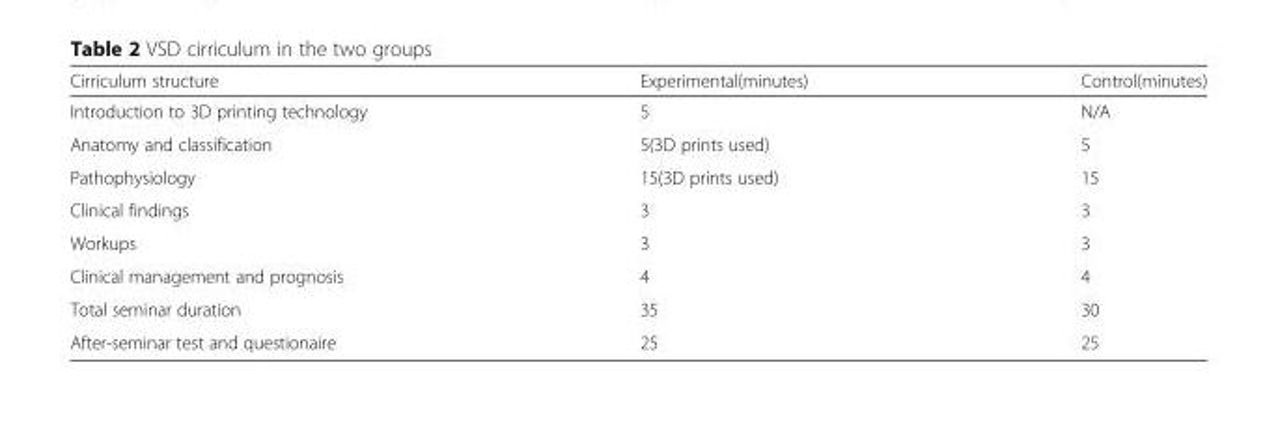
<table><thead><tr><td>Cirriculum structure</td><td>Experimental(minutes)</td><td>Control(minutes)</td></tr></thead><tbody><tr><td>Introduction to 3D printing technology</td><td>5</td><td>N/A</td></tr><tr><td>Anatomy and classification</td><td>5(3D prints used)</td><td>5</td></tr><tr><td>Pathophysiology</td><td>15(3D prints used)</td><td>15</td></tr><tr><td>Clinical findings</td><td>3</td><td>3</td></tr><tr><td>Workups</td><td>3</td><td>3</td></tr><tr><td>Clinical management and prognosis</td><td>4</td><td>4</td></tr><tr><td>Total seminar duration</td><td>35</td><td>30</td></tr><tr><td>After-seminar test and questionaire</td><td>25</td><td>25</td></tr></tbody></table>